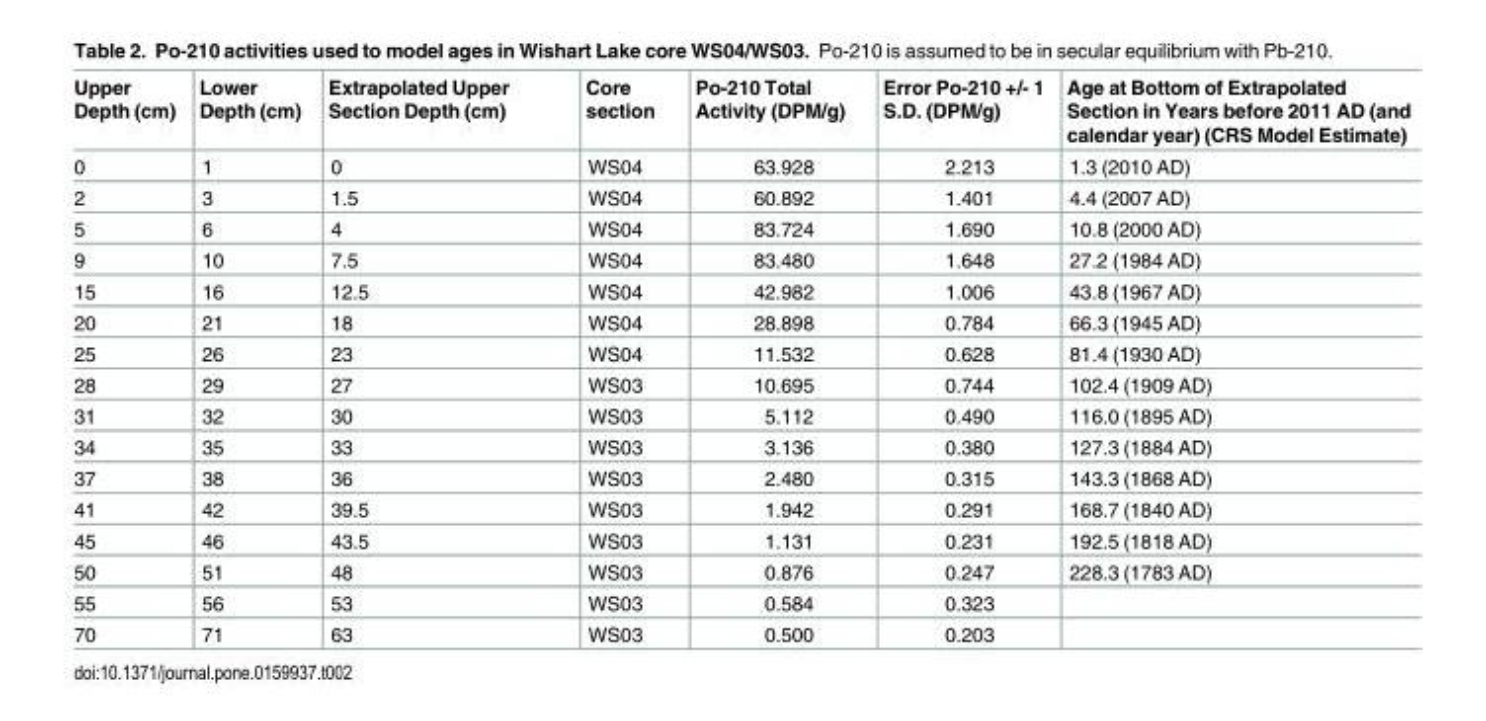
<table><thead><tr><td>Upper Depth (cm)</td><td>Lower Depth (cm)</td><td>Extrapolated Upper Section Depth (cm)</td><td>Core section</td><td>Po-210 Total Activity (DPM/g)</td><td>Error Po-210 +/- 1 S.D. (DPM/g)</td><td>Age at Bottom of Extrapolated Section in Years before 2011 AD (and calendar year) (CRS Model Estimate)</td></tr></thead><tbody><tr><td>0</td><td>1</td><td>0</td><td>WS04</td><td>63.928</td><td>2.213</td><td>1.3 (2010 AD)</td></tr><tr><td>2</td><td>3</td><td>1.5</td><td>WS04</td><td>60.892</td><td>1.401</td><td>4.4 (2007 AD)</td></tr><tr><td>5</td><td>6</td><td>4</td><td>WS04</td><td>83.724</td><td>1.690</td><td>10.8 (2000 AD)</td></tr><tr><td>9</td><td>10</td><td>7.5</td><td>WS04</td><td>83.480</td><td>1.648</td><td>27.2 (1984 AD)</td></tr><tr><td>15</td><td>16</td><td>12.5</td><td>WS04</td><td>42.982</td><td>1.006</td><td>43.8 (1967 AD)</td></tr><tr><td>20</td><td>21</td><td>18</td><td>WS04</td><td>28.898</td><td>0.784</td><td>66.3 (1945 AD)</td></tr><tr><td>25</td><td>26</td><td>23</td><td>WS04</td><td>11.532</td><td>0.628</td><td>81.4 (1930 AD)</td></tr><tr><td>28</td><td>29</td><td>27</td><td>WS03</td><td>10.695</td><td>0.744</td><td>102.4 (1909 AD)</td></tr><tr><td>31</td><td>32</td><td>30</td><td>WS03</td><td>5.112</td><td>0.490</td><td>116.0 (1895 AD)</td></tr><tr><td>34</td><td>35</td><td>33</td><td>WS03</td><td>3.136</td><td>0.380</td><td>127.3 (1884 AD)</td></tr><tr><td>37</td><td>38</td><td>36</td><td>WS03</td><td>2.480</td><td>0.315</td><td>143.3 (1868 AD)</td></tr><tr><td>41</td><td>42</td><td>39.5</td><td>WS03</td><td>1.942</td><td>0.291</td><td>168.7 (1840 AD)</td></tr><tr><td>45</td><td>46</td><td>43.5</td><td>WS03</td><td>1.131</td><td>0.231</td><td>192.5 (1818 AD)</td></tr><tr><td>50</td><td>51</td><td>48</td><td>WS03</td><td>0.876</td><td>0.247</td><td>228.3 (1783 AD)</td></tr><tr><td>55</td><td>56</td><td>53</td><td>WS03</td><td>0.584</td><td>0.323</td><td></td></tr><tr><td>70</td><td>71</td><td>63</td><td>WS03</td><td>0.500</td><td>0.203</td><td></td></tr></tbody></table>